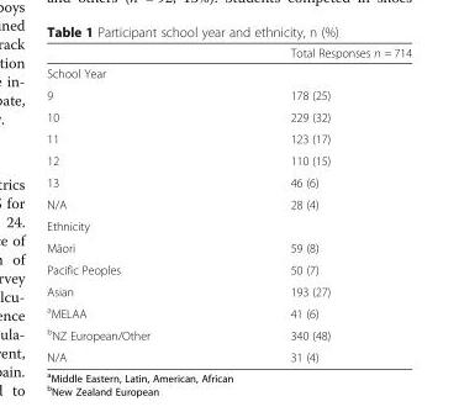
<table><thead><tr><td></td><td>Total Responses n = 714</td></tr></thead><tbody><tr><td colspan="2">School Year</td></tr><tr><td>9</td><td>178 (25)</td></tr><tr><td>10</td><td>229 (32)</td></tr><tr><td>11</td><td>123 (17)</td></tr><tr><td>12</td><td>110 (15)</td></tr><tr><td>13</td><td>46 (6)</td></tr><tr><td>N/A</td><td>28 (4)</td></tr><tr><td colspan="2">Ethnicity</td></tr><tr><td>Māori</td><td>59 (8)</td></tr><tr><td>Pacific Peoples</td><td>50 (7)</td></tr><tr><td>Asian</td><td>193 (27)</td></tr><tr><td><sup>a</sup>MELAA</td><td>41 (6)</td></tr><tr><td><sup>b</sup>NZ European/Other</td><td>340 (48)</td></tr><tr><td>N/A</td><td>31 (4)</td></tr></tbody></table>